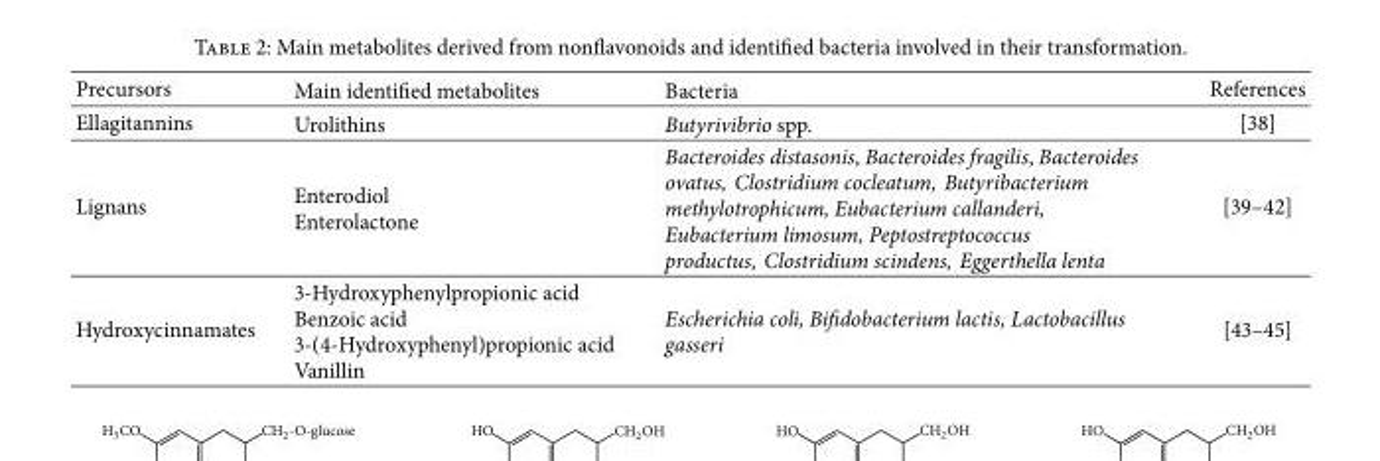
<table><thead><tr><td>Precursors</td><td>Main identified metabolites</td><td>Bacteria</td><td>References</td></tr></thead><tbody><tr><td>Ellagitannins</td><td>Urolithins</td><td>Butyrivibrio spp.</td><td>[38]</td></tr><tr><td>Lignans</td><td>Enterodiol Enterolactone</td><td>Bacteroides distasonis, Bacteroides fragilis, Bacteroides ovatus, Clostridium cocleatum, Butyribacterium methylotrophicum, Eubacterium callanderi, Eubacterium limosum, Peptostreptococcus productus, Clostridium scindens, Eggerthella lenta</td><td>[39–42]</td></tr><tr><td>Hydroxycinnamates</td><td>3-Hydroxyphenylpropionic acid Benzoic acid 3-(4-Hydroxyphenyl)propionic acid Vanillin</td><td>Escherichia coli, Bifidobacterium lactis, Lactobacillus gasseri</td><td>[43–45]</td></tr></tbody></table>